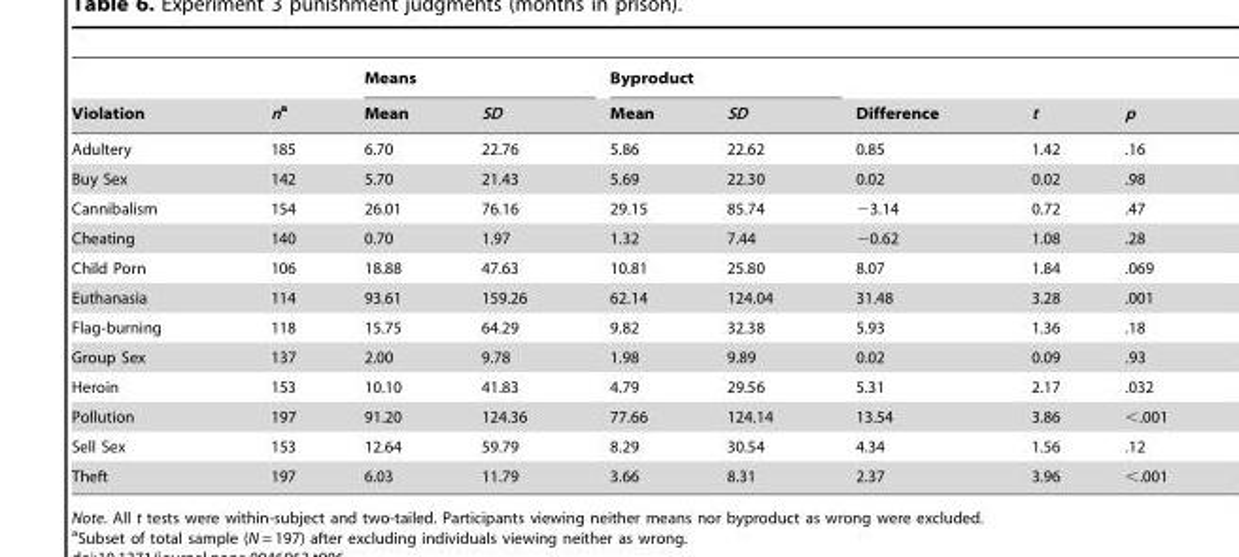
<table><thead><tr><td rowspan="2">Violation</td><td rowspan="2">na</td><td colspan="2">Means</td><td colspan="2">Byproduct</td><td rowspan="2">Difference</td><td rowspan="2">t</td><td rowspan="2">p</td></tr><tr><td>Mean</td><td>SD</td><td>Mean</td><td>SD</td></tr></thead><tbody><tr><td>Adultery</td><td>185</td><td>6.70</td><td>22.76</td><td>5.86</td><td>22.62</td><td>0.85</td><td>1.42</td><td>.16</td></tr><tr><td>Buy Sex</td><td>142</td><td>5.70</td><td>21.43</td><td>5.69</td><td>22.30</td><td>0.02</td><td>0.02</td><td>.98</td></tr><tr><td>Cannibalism</td><td>154</td><td>26.01</td><td>76.16</td><td>29.15</td><td>85.74</td><td>−3.14</td><td>0.72</td><td>.47</td></tr><tr><td>Cheating</td><td>140</td><td>0.70</td><td>1.97</td><td>1.32</td><td>7.44</td><td>−0.62</td><td>1.08</td><td>.28</td></tr><tr><td>Child Porn</td><td>106</td><td>18.88</td><td>47.63</td><td>10.81</td><td>25.80</td><td>8.07</td><td>1.84</td><td>.069</td></tr><tr><td>Euthanasia</td><td>114</td><td>93.61</td><td>159.26</td><td>62.14</td><td>124.04</td><td>31.48</td><td>3.28</td><td>.001</td></tr><tr><td>Flag-burning</td><td>118</td><td>15.75</td><td>64.29</td><td>9.82</td><td>32.38</td><td>5.93</td><td>1.36</td><td>.18</td></tr><tr><td>Group Sex</td><td>137</td><td>2.00</td><td>9.78</td><td>1.98</td><td>9.89</td><td>0.02</td><td>0.09</td><td>.93</td></tr><tr><td>Heroin</td><td>153</td><td>10.10</td><td>41.83</td><td>4.79</td><td>29.56</td><td>5.31</td><td>2.17</td><td>.032</td></tr><tr><td>Pollution</td><td>197</td><td>91.20</td><td>124.36</td><td>77.66</td><td>124.14</td><td>13.54</td><td>3.86</td><td>&lt;.001</td></tr><tr><td>Sell Sex</td><td>153</td><td>12.64</td><td>59.79</td><td>8.29</td><td>30.54</td><td>4.34</td><td>1.56</td><td>.12</td></tr><tr><td>Theft</td><td>197</td><td>6.03</td><td>11.79</td><td>3.66</td><td>8.31</td><td>2.37</td><td>3.96</td><td>&lt;.001</td></tr></tbody></table>